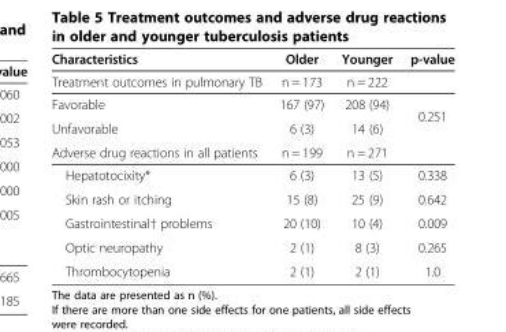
<table><thead><tr><td>Characteristics</td><td>Older</td><td>Younger</td><td>p-value</td></tr></thead><tbody><tr><td>Treatment outcomes in pulmonary TB</td><td>n = 173</td><td>n = 222</td><td></td></tr><tr><td>Favorable</td><td>167 (97)</td><td>208 (94)</td><td rowspan="2">0.251</td></tr><tr><td>Unfavorable</td><td>6 (3)</td><td>14 (6)</td></tr><tr><td>Adverse drug reactions in all patients</td><td>n = 199</td><td>n = 271</td><td></td></tr><tr><td>Hepatotocixity*</td><td>6 (3)</td><td>13 (5)</td><td>0.338</td></tr><tr><td>Skin rash or itching</td><td>15 (8)</td><td>25 (9)</td><td>0.642</td></tr><tr><td>Gastrointestinal† problems</td><td>20 (10)</td><td>10 (4)</td><td>0.009</td></tr><tr><td>Optic neuropathy</td><td>2 (1)</td><td>8 (3)</td><td>0.265</td></tr><tr><td>Thrombocytopenia</td><td>2 (1)</td><td>2 (1)</td><td>1.0</td></tr></tbody></table>